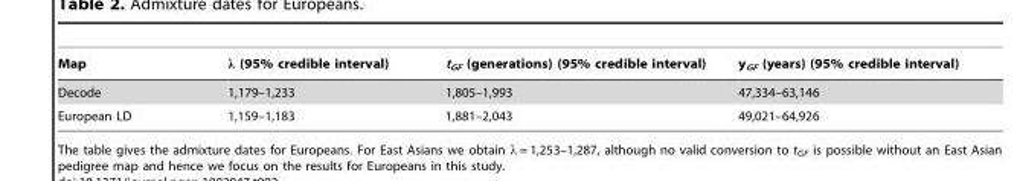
<table><thead><tr><td>Map</td><td>λ (95% credible interval)</td><td>t<sub>GF</sub> (generations) (95% credible interval)</td><td>y<sub>GF</sub> (years) (95% credible interval)</td></tr></thead><tbody><tr><td>Decode</td><td>1,179–1,233</td><td>1,805–1,993</td><td>47,334–63,146</td></tr><tr><td>European LD</td><td>1,159–1,183</td><td>1,881–2,043</td><td>49,021–64,926</td></tr></tbody></table>